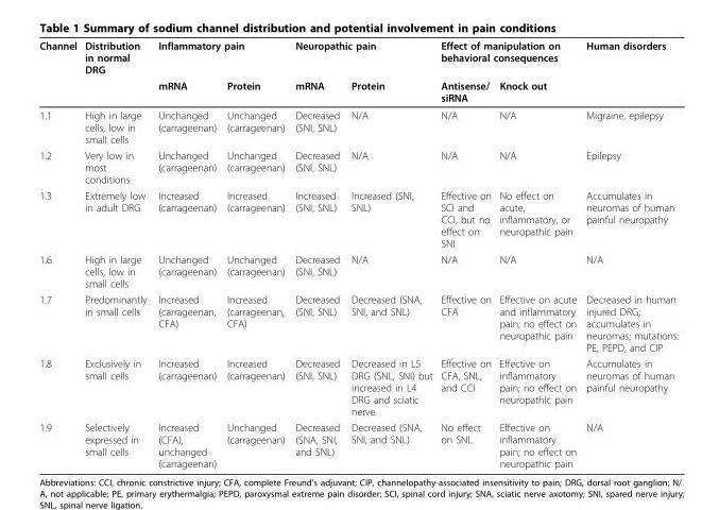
<table><thead><tr><td rowspan="2">Channel</td><td rowspan="2">Distribution in normal DRG</td><td colspan="2">Inflammatory pain</td><td colspan="2">Neuropathic pain</td><td colspan="2">Effect of manipulation on behavioral consequences</td><td rowspan="2">Human disorders</td></tr><tr><td>mRNA</td><td>Protein</td><td>mRNA</td><td>Protein</td><td>Antisense/ siRNA</td><td>Knock out</td></tr></thead><tbody><tr><td>1.1</td><td>High in large cells, low in small cells</td><td>Unchanged (carrageenan)</td><td>Unchanged (carrageenan)</td><td>Decreased (SNI, SNL)</td><td>N/A</td><td>N/A</td><td>N/A</td><td>Migraine, epilepsy</td></tr><tr><td>1.2</td><td>Very low in most conditions</td><td>Unchanged (carrageenan)</td><td>Unchanged (carrageenan)</td><td>Decreased (SNI, SNL)</td><td>N/A</td><td>N/A</td><td>N/A</td><td>Epilepsy</td></tr><tr><td>1.3</td><td>Extremely low in adult DRG</td><td>Increased (carrageenan)</td><td>Increased (carrageenan)</td><td>Increased (SNI, SNL)</td><td>Increased (SNI, SNL)</td><td>Effective on SCI and CCI, but no effect on SNI</td><td>No effect on acute, inflammatory, or neuropathic pain</td><td>Accumulates in neuromas of human painful neuropathy</td></tr><tr><td>1.6</td><td>High in large cells, low in small cells</td><td>Unchanged (carrageenan)</td><td>Unchanged (carrageenan)</td><td>Decreased (SNI, SNL)</td><td>N/A</td><td>N/A</td><td>N/A</td><td>N/A</td></tr><tr><td>1.7</td><td>Predominantly in small cells</td><td>Increased (carrageenan, CFA)</td><td>Increased (carrageenan, CFA)</td><td>Decreased (SNI, SNL)</td><td>Decreased (SNA, SNI, and SNL)</td><td>Effective on CFA</td><td>Effective on acute and inflammatory pain; no effect on neuropathic pain</td><td>Decreased in human injured DRG; accumulates in neuromas; mutations: PE, PEPD, and CIP</td></tr><tr><td>1.8</td><td>Exclusively in small cells</td><td>Increased (carrageenan)</td><td>Increased (carrageenan)</td><td>Decreased (SNI, SNL)</td><td>Decreased in L5 DRG (SNL, SNI) but increased in L4 DRG and sciatic nerve</td><td>Effective on CFA, SNL, and CCI</td><td>Effective on inflammatory pain; no effect on neuropathic pain</td><td>Accumulates in neuromas of human painful neuropathy</td></tr><tr><td>1.9</td><td>Selectively expressed in small cells</td><td>Increased (CFA), unchanged (carrageenan)</td><td>Unchanged (carrageenan)</td><td>Decreased (SNA, SNI, and SNL)</td><td>Decreased (SNA, SNI, and SNL)</td><td>No effect on SNL</td><td>Effective on inflammatory pain; no effect on neuropathic pain</td><td>N/A</td></tr></tbody></table>